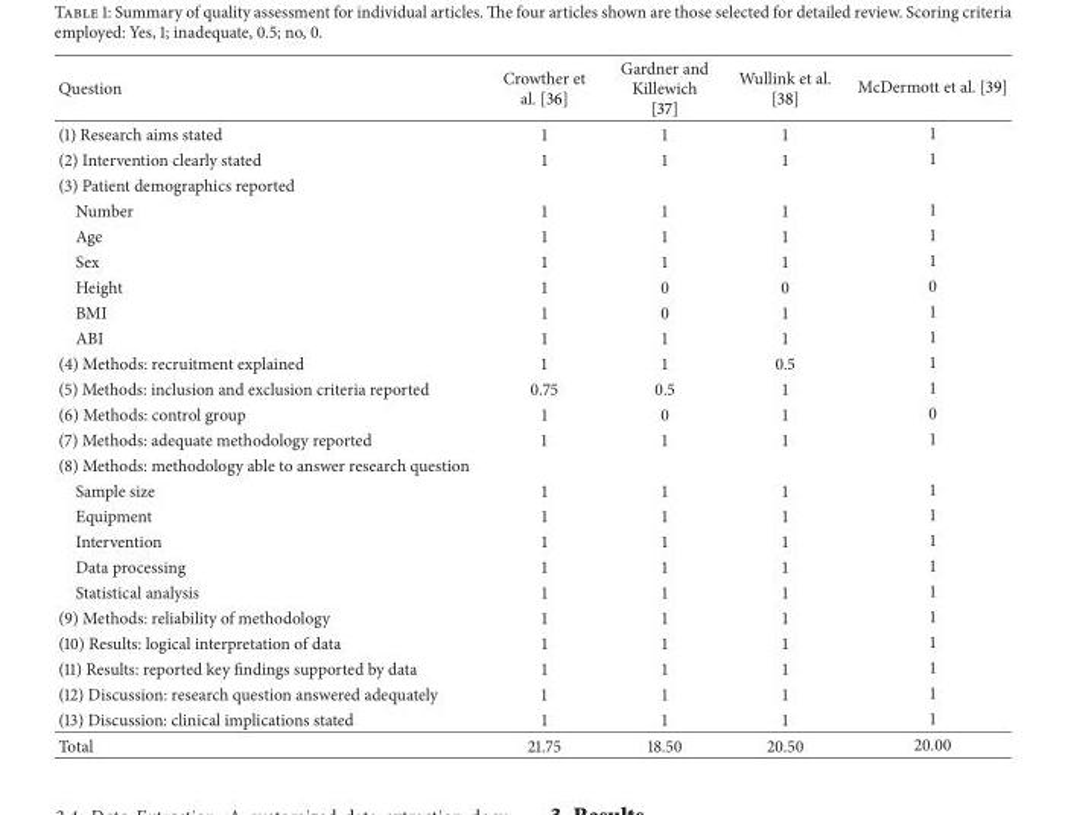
<table><thead><tr><td>Question</td><td>Crowther et al. [36]</td><td>Gardner and Killewich [37]</td><td>Wullink et al. [38]</td><td>McDermott et al. [39]</td></tr></thead><tbody><tr><td>(1) Research aims stated</td><td>1</td><td>1</td><td>1</td><td>1</td></tr><tr><td>(2) Intervention clearly stated</td><td>1</td><td>1</td><td>1</td><td>1</td></tr><tr><td colspan="5">(3) Patient demographics reported</td></tr><tr><td>Number</td><td>1</td><td>1</td><td>1</td><td>1</td></tr><tr><td>Age</td><td>1</td><td>1</td><td>1</td><td>1</td></tr><tr><td>Sex</td><td>1</td><td>1</td><td>1</td><td>1</td></tr><tr><td>Height</td><td>1</td><td>0</td><td>0</td><td>0</td></tr><tr><td>BMI</td><td>1</td><td>0</td><td>1</td><td>1</td></tr><tr><td>ABI</td><td>1</td><td>1</td><td>1</td><td>1</td></tr><tr><td>(4) Methods: recruitment explained</td><td>1</td><td>1</td><td>0.5</td><td>1</td></tr><tr><td>(5) Methods: inclusion and exclusion criteria reported</td><td>0.75</td><td>0.5</td><td>1</td><td>1</td></tr><tr><td>(6) Methods: control group</td><td>1</td><td>0</td><td>1</td><td>0</td></tr><tr><td>(7) Methods: adequate methodology reported</td><td>1</td><td>1</td><td>1</td><td>1</td></tr><tr><td colspan="5">(8) Methods: methodology able to answer research question</td></tr><tr><td>Sample size</td><td>1</td><td>1</td><td>1</td><td>1</td></tr><tr><td>Equipment</td><td>1</td><td>1</td><td>1</td><td>1</td></tr><tr><td>Intervention</td><td>1</td><td>1</td><td>1</td><td>1</td></tr><tr><td>Data processing</td><td>1</td><td>1</td><td>1</td><td>1</td></tr><tr><td>Statistical analysis</td><td>1</td><td>1</td><td>1</td><td>1</td></tr><tr><td>(9) Methods: reliability of methodology</td><td>1</td><td>1</td><td>1</td><td>1</td></tr><tr><td>(10) Results: logical interpretation of data</td><td>1</td><td>1</td><td>1</td><td>1</td></tr><tr><td>(11) Results: reported key findings supported by data</td><td>1</td><td>1</td><td>1</td><td>1</td></tr><tr><td>(12) Discussion: research question answered adequately</td><td>1</td><td>1</td><td>1</td><td>1</td></tr><tr><td>(13) Discussion: clinical implications stated</td><td>1</td><td>1</td><td>1</td><td>1</td></tr><tr><td>Total</td><td>21.75</td><td>18.50</td><td>20.50</td><td>20.00</td></tr></tbody></table>